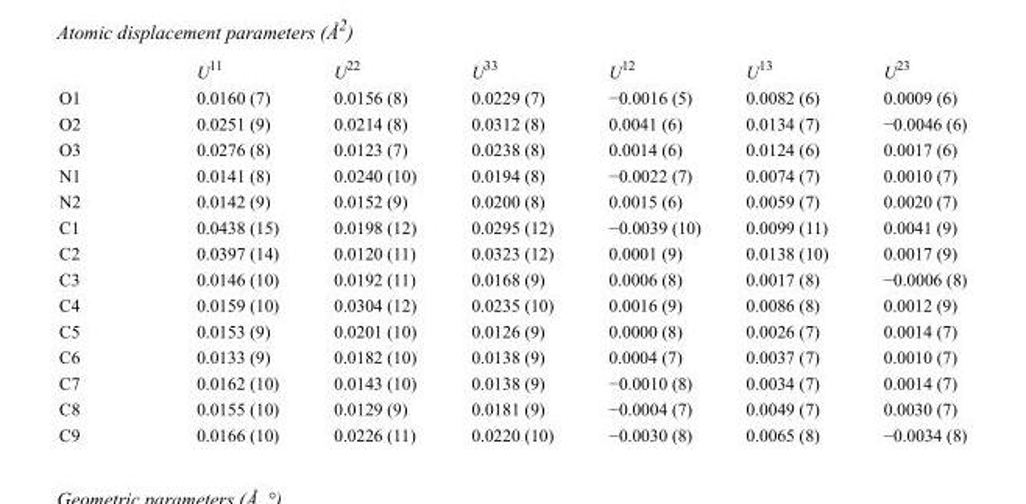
<table><thead><tr><td></td><td>U<sup>11</sup></td><td>U<sup>22</sup></td><td>U<sup>33</sup></td><td>U<sup>12</sup></td><td>U<sup>13</sup></td><td>U<sup>23</sup></td></tr></thead><tbody><tr><td>O1</td><td>0.0160 (7)</td><td>0.0156 (8)</td><td>0.0229 (7)</td><td>−0.0016 (5)</td><td>0.0082 (6)</td><td>0.0009 (6)</td></tr><tr><td>O2</td><td>0.0251 (9)</td><td>0.0214 (8)</td><td>0.0312 (8)</td><td>0.0041 (6)</td><td>0.0134 (7)</td><td>−0.0046 (6)</td></tr><tr><td>O3</td><td>0.0276 (8)</td><td>0.0123 (7)</td><td>0.0238 (8)</td><td>0.0014 (6)</td><td>0.0124 (6)</td><td>0.0017 (6)</td></tr><tr><td>N1</td><td>0.0141 (8)</td><td>0.0240 (10)</td><td>0.0194 (8)</td><td>−0.0022 (7)</td><td>0.0074 (7)</td><td>0.0010 (7)</td></tr><tr><td>N2</td><td>0.0142 (9)</td><td>0.0152 (9)</td><td>0.0200 (8)</td><td>0.0015 (6)</td><td>0.0059 (7)</td><td>0.0020 (7)</td></tr><tr><td>C1</td><td>0.0438 (15)</td><td>0.0198 (12)</td><td>0.0295 (12)</td><td>−0.0039 (10)</td><td>0.0099 (11)</td><td>0.0041 (9)</td></tr><tr><td>C2</td><td>0.0397 (14)</td><td>0.0120 (11)</td><td>0.0323 (12)</td><td>0.0001 (9)</td><td>0.0138 (10)</td><td>0.0017 (9)</td></tr><tr><td>C3</td><td>0.0146 (10)</td><td>0.0192 (11)</td><td>0.0168 (9)</td><td>0.0006 (8)</td><td>0.0017 (8)</td><td>−0.0006 (8)</td></tr><tr><td>C4</td><td>0.0159 (10)</td><td>0.0304 (12)</td><td>0.0235 (10)</td><td>0.0016 (9)</td><td>0.0086 (8)</td><td>0.0012 (9)</td></tr><tr><td>C5</td><td>0.0153 (9)</td><td>0.0201 (10)</td><td>0.0126 (9)</td><td>0.0000 (8)</td><td>0.0026 (7)</td><td>0.0014 (7)</td></tr><tr><td>C6</td><td>0.0133 (9)</td><td>0.0182 (10)</td><td>0.0138 (9)</td><td>0.0004 (7)</td><td>0.0037 (7)</td><td>0.0010 (7)</td></tr><tr><td>C7</td><td>0.0162 (10)</td><td>0.0143 (10)</td><td>0.0138 (9)</td><td>−0.0010 (8)</td><td>0.0034 (7)</td><td>0.0014 (7)</td></tr><tr><td>C8</td><td>0.0155 (10)</td><td>0.0129 (9)</td><td>0.0181 (9)</td><td>−0.0004 (7)</td><td>0.0049 (7)</td><td>0.0030 (7)</td></tr><tr><td>C9</td><td>0.0166 (10)</td><td>0.0226 (11)</td><td>0.0220 (10)</td><td>−0.0030 (8)</td><td>0.0065 (8)</td><td>−0.0034 (8)</td></tr></tbody></table>